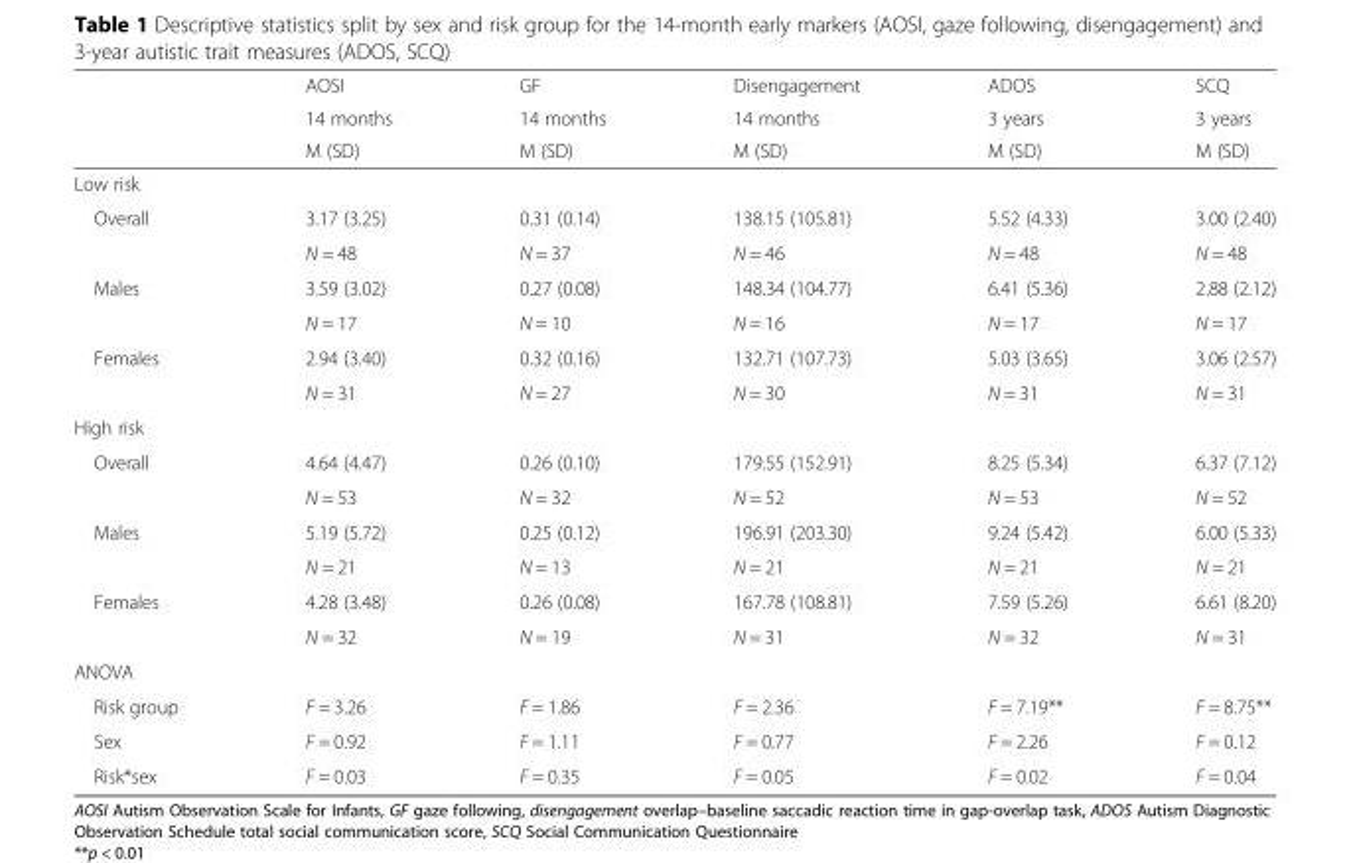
<table><thead><tr><td rowspan="3"></td><td rowspan="3">AOSI 14 months M (SD)</td><td rowspan="3">GF 14 months M (SD)</td><td rowspan="3">Disengagement 14 months M (SD)</td><td rowspan="3">ADOS 3 years M (SD)</td><td rowspan="3">SCQ 3 years M (SD)</td></tr><tr></tr><tr></tr></thead><tbody><tr><td colspan="6">Low risk</td></tr><tr><td rowspan="2">Overall</td><td>3.17 (3.25)</td><td>0.31 (0.14)</td><td>138.15 (105.81)</td><td>5.52 (4.33)</td><td>3.00 (2.40)</td></tr><tr><td>N = 48</td><td>N = 37</td><td>N = 46</td><td>N = 48</td><td>N = 48</td></tr><tr><td rowspan="2">Males</td><td>3.59 (3.02)</td><td>0.27 (0.08)</td><td>148.34 (104.77)</td><td>6.41 (5.36)</td><td>2.88 (2.12)</td></tr><tr><td>N = 17</td><td>N = 10</td><td>N = 16</td><td>N = 17</td><td>N = 17</td></tr><tr><td rowspan="2">Females</td><td>2.94 (3.40)</td><td>0.32 (0.16)</td><td>132.71 (107.73)</td><td>5.03 (3.65)</td><td>3.06 (2.57)</td></tr><tr><td>N = 31</td><td>N = 27</td><td>N = 30</td><td>N = 31</td><td>N = 31</td></tr><tr><td colspan="6">High risk</td></tr><tr><td rowspan="2">Overall</td><td>4.64 (4.47)</td><td>0.26 (0.10)</td><td>179.55 (152.91)</td><td>8.25 (5.34)</td><td>6.37 (7.12)</td></tr><tr><td>N = 53</td><td>N = 32</td><td>N = 52</td><td>N = 53</td><td>N = 52</td></tr><tr><td rowspan="2">Males</td><td>5.19 (5.72)</td><td>0.25 (0.12)</td><td>196.91 (203.30)</td><td>9.24 (5.42)</td><td>6.00 (5.33)</td></tr><tr><td>N = 21</td><td>N = 13</td><td>N = 21</td><td>N = 21</td><td>N = 21</td></tr><tr><td rowspan="2">Females</td><td>4.28 (3.48)</td><td>0.26 (0.08)</td><td>167.78 (108.81)</td><td>7.59 (5.26)</td><td>6.61 (8.20)</td></tr><tr><td>N = 32</td><td>N = 19</td><td>N = 31</td><td>N = 32</td><td>N = 31</td></tr><tr><td colspan="6">ANOVA</td></tr><tr><td>Risk group</td><td>F = 3.26</td><td>F = 1.86</td><td>F = 2.36</td><td>F = 7.19**</td><td>F = 8.75**</td></tr><tr><td>Sex</td><td>F = 0.92</td><td>F = 1.11</td><td>F = 0.77</td><td>F = 2.26</td><td>F = 0.12</td></tr><tr><td>Risk*sex</td><td>F = 0.03</td><td>F = 0.35</td><td>F = 0.05</td><td>F = 0.02</td><td>F = 0.04</td></tr></tbody></table>